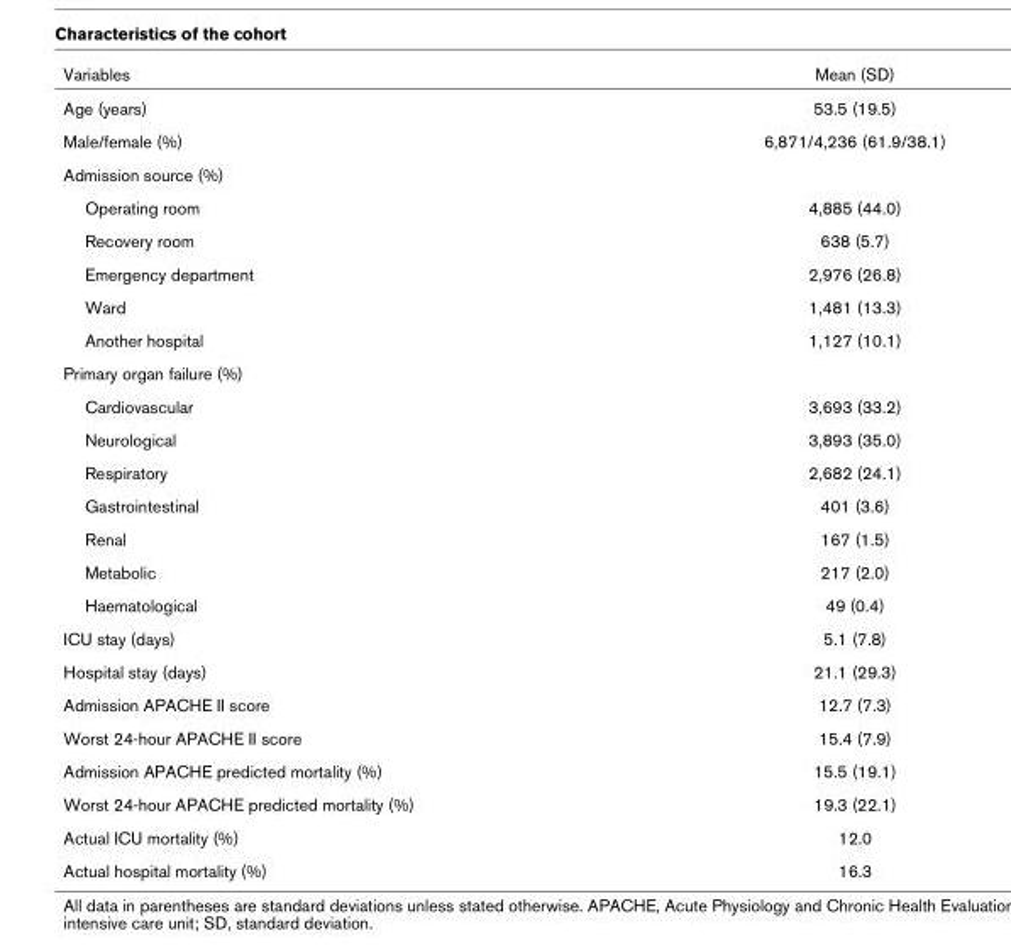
<table><thead><tr><td>Variables</td><td>Mean (SD)</td></tr></thead><tbody><tr><td>Age (years)</td><td>53.5 (19.5)</td></tr><tr><td>Male/female (%)</td><td>6,871/4,236 (61.9/38.1)</td></tr><tr><td colspan="2">Admission source (%)</td></tr><tr><td>Operating room</td><td>4,885 (44.0)</td></tr><tr><td>Recovery room</td><td>638 (5.7)</td></tr><tr><td>Emergency department</td><td>2,976 (26.8)</td></tr><tr><td>Ward</td><td>1,481 (13.3)</td></tr><tr><td>Another hospital</td><td>1,127 (10.1)</td></tr><tr><td colspan="2">Primary organ failure (%)</td></tr><tr><td>Cardiovascular</td><td>3,693 (33.2)</td></tr><tr><td>Neurological</td><td>3,893 (35.0)</td></tr><tr><td>Respiratory</td><td>2,682 (24.1)</td></tr><tr><td>Gastrointestinal</td><td>401 (3.6)</td></tr><tr><td>Renal</td><td>167 (1.5)</td></tr><tr><td>Metabolic</td><td>217 (2.0)</td></tr><tr><td>Haematological</td><td>49 (0.4)</td></tr><tr><td>ICU stay (days)</td><td>5.1 (7.8)</td></tr><tr><td>Hospital stay (days)</td><td>21.1 (29.3)</td></tr><tr><td>Admission APACHE II score</td><td>12.7 (7.3)</td></tr><tr><td>Worst 24-hour APACHE II score</td><td>15.4 (7.9)</td></tr><tr><td>Admission APACHE predicted mortality (%)</td><td>15.5 (19.1)</td></tr><tr><td>Worst 24-hour APACHE predicted mortality (%)</td><td>19.3 (22.1)</td></tr><tr><td>Actual ICU mortality (%)</td><td>12.0</td></tr><tr><td>Actual hospital mortality (%)</td><td>16.3</td></tr></tbody></table>